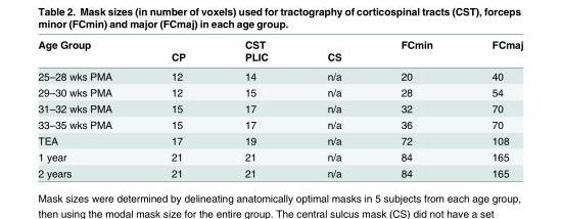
<table><thead><tr><td rowspan="2">Age Group</td><td rowspan="2">CP</td><td rowspan="2">CST PLIC</td><td rowspan="2">CS</td><td rowspan="2">FCmin</td><td rowspan="2">FCmaj</td></tr><tr></tr></thead><tbody><tr><td>25–28 wks PMA</td><td>12</td><td>14</td><td>n/a</td><td>20</td><td>40</td></tr><tr><td>29–30 wks PMA</td><td>12</td><td>15</td><td>n/a</td><td>28</td><td>54</td></tr><tr><td>31–32 wks PMA</td><td>15</td><td>17</td><td>n/a</td><td>32</td><td>70</td></tr><tr><td>33–35 wks PMA</td><td>15</td><td>17</td><td>n/a</td><td>36</td><td>70</td></tr><tr><td>TEA</td><td>17</td><td>19</td><td>n/a</td><td>72</td><td>108</td></tr><tr><td>1 year</td><td>21</td><td>21</td><td>n/a</td><td>84</td><td>165</td></tr><tr><td>2 years</td><td>21</td><td>21</td><td>n/a</td><td>84</td><td>165</td></tr></tbody></table>